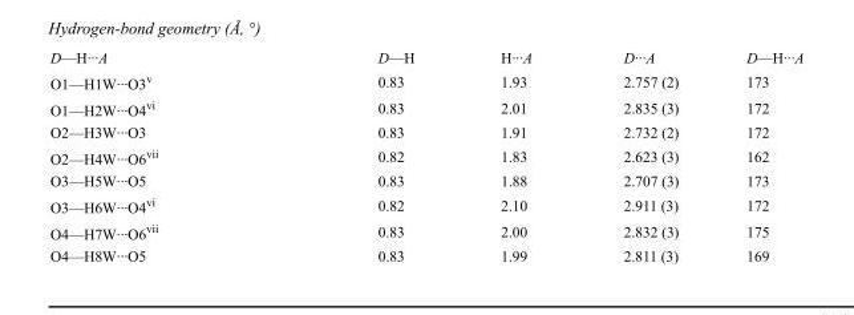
<table><tbody><tr><td>D—H···A</td><td>D—H</td><td>H···A</td><td>D···A</td><td>D—H···A</td></tr><tr><td>O1—H1W···O3<sup>v</sup></td><td>0.83</td><td>1.93</td><td>2.757 (2)</td><td>173</td></tr><tr><td>O1—H2W···O4<sup>vi</sup></td><td>0.83</td><td>2.01</td><td>2.835 (3)</td><td>172</td></tr><tr><td>O2—H3W···O3</td><td>0.83</td><td>1.91</td><td>2.732 (2)</td><td>172</td></tr><tr><td>O2—H4W···O6<sup>vii</sup></td><td>0.82</td><td>1.83</td><td>2.623 (3)</td><td>162</td></tr><tr><td>O3—H5W···O5</td><td>0.83</td><td>1.88</td><td>2.707 (3)</td><td>173</td></tr><tr><td>O3—H6W···O4<sup>vi</sup></td><td>0.82</td><td>2.10</td><td>2.911 (3)</td><td>172</td></tr><tr><td>O4—H7W···O6<sup>vii</sup></td><td>0.83</td><td>2.00</td><td>2.832 (3)</td><td>175</td></tr><tr><td>O4—H8W···O5</td><td>0.83</td><td>1.99</td><td>2.811 (3)</td><td>169</td></tr></tbody></table>